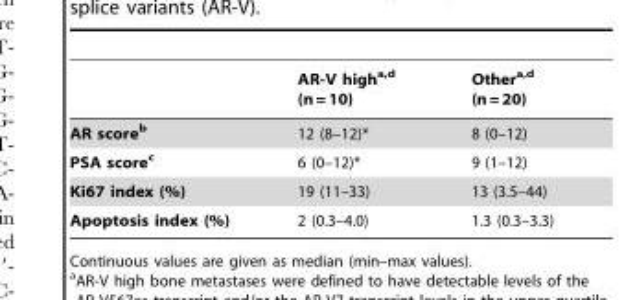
<table><thead><tr><td></td><td>AR-V high<sup>a,</sup>d (n = 10)</td><td>Other<sup>a,</sup>d (n = 20)</td></tr></thead><tbody><tr><td>AR scoreb</td><td>12 (8–12)*</td><td>8 (0–12)</td></tr><tr><td>PSA scorec</td><td>6 (0–12)*</td><td>9 (1–12)</td></tr><tr><td>Ki67 index (%)</td><td>19 (11–33)</td><td>13 (3.5–44)</td></tr><tr><td>Apoptosis index (%)</td><td>2 (0.3–4.0)</td><td>1.3 (0.3–3.3)</td></tr></tbody></table>